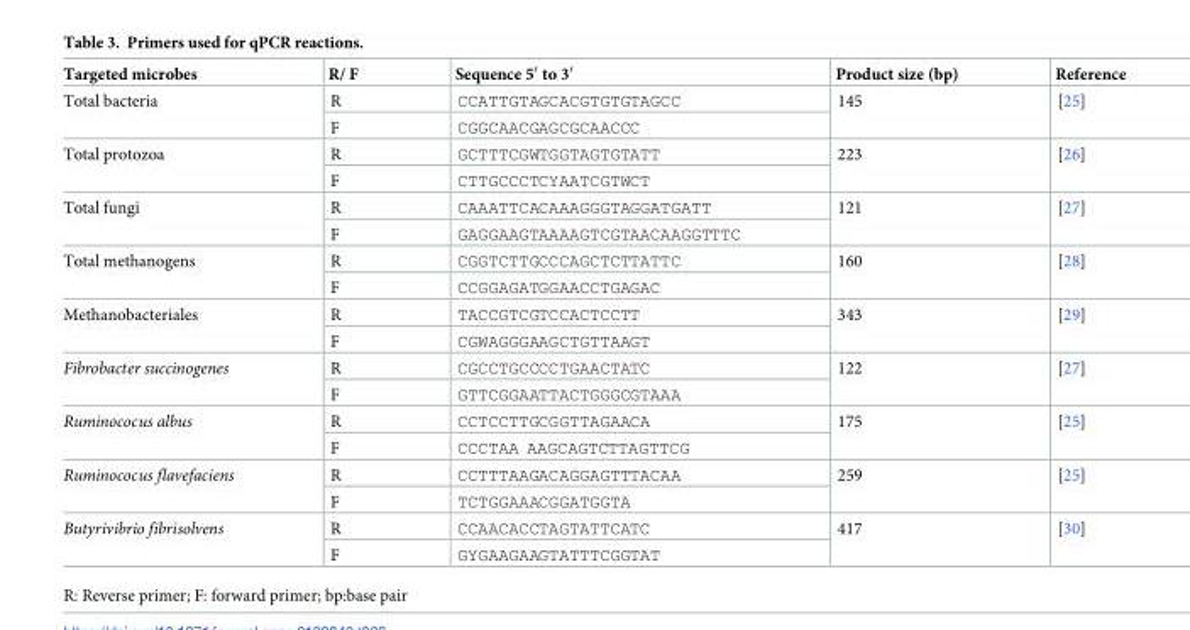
<table><thead><tr><td>Targeted microbes</td><td>R/ F</td><td>Sequence 5′ to 3′</td><td>Product size (bp)</td><td>Reference</td></tr></thead><tbody><tr><td rowspan="2">Total bacteria</td><td>R</td><td>CCATTGTAGCACGTGTGTAGCC</td><td rowspan="2">145</td><td rowspan="2">[25]</td></tr><tr><td>F</td><td>CGGCAACGAGCGCAACCC</td></tr><tr><td rowspan="2">Total protozoa</td><td>R</td><td>GCTTTCGWTGGTAGTGTATT</td><td rowspan="2">223</td><td rowspan="2">[26]</td></tr><tr><td>F</td><td>CTTGCCCTCYAATCGTWCT</td></tr><tr><td rowspan="2">Total fungi</td><td>R</td><td>CAAATTCACAAAGGGTAGGATGATT</td><td rowspan="2">121</td><td rowspan="2">[27]</td></tr><tr><td>F</td><td>GAGGAAGTAAAAGTCGTAACAAGGTTTC</td></tr><tr><td rowspan="2">Total methanogens</td><td>R</td><td>CGGTCTTGCCCAGCTCTTATTC</td><td rowspan="2">160</td><td rowspan="2">[28]</td></tr><tr><td>F</td><td>CCGGAGATGGAACCTGAGAC</td></tr><tr><td rowspan="2">Methanobacteriales</td><td>R</td><td>TACCGTCGTCCACTCCTT</td><td rowspan="2">343</td><td rowspan="2">[29]</td></tr><tr><td>F</td><td>CGWAGGGAAGCTGTTAAGT</td></tr><tr><td rowspan="2">Fibrobacter succinogenes</td><td>R</td><td>CGCCTGCCCCTGAACTATC</td><td rowspan="2">122</td><td rowspan="2">[27]</td></tr><tr><td>F</td><td>GTTCGGAATTACTGGGCGTAAA</td></tr><tr><td rowspan="2">Ruminococus albus</td><td>R</td><td>CCTCCTTGCGGTTAGAACA</td><td rowspan="2">175</td><td rowspan="2">[25]</td></tr><tr><td>F</td><td>CCCTAA AAGCAGTCTTAGTTCG</td></tr><tr><td rowspan="2">Ruminococus flavefaciens</td><td>R</td><td>CCTTTAAGACAGGAGTTTACAA</td><td rowspan="2">259</td><td rowspan="2">[25]</td></tr><tr><td>F</td><td>TCTGGAAACGGATGGTA</td></tr><tr><td rowspan="2">Butyrivibrio fibrisolvens</td><td>R</td><td>CCAACACCTAGTATTCATC</td><td rowspan="2">417</td><td rowspan="2">[30]</td></tr><tr><td>F</td><td>GYGAAGAAGTATTTCGGTAT</td></tr></tbody></table>